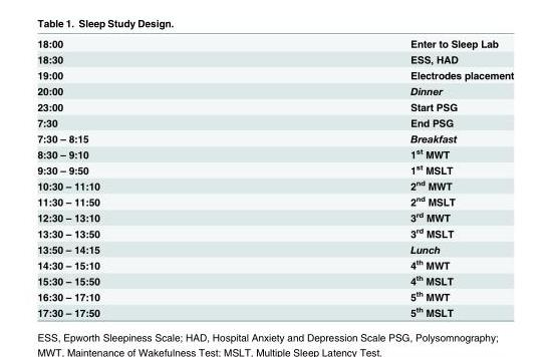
<table><tbody><tr><td>18:00</td><td>Enter to Sleep Lab</td></tr><tr><td>18:30</td><td>ESS, HAD</td></tr><tr><td>19:00</td><td>Electrodes placement</td></tr><tr><td>20:00</td><td>Dinner</td></tr><tr><td>23:00</td><td>Start PSG</td></tr><tr><td>7:30</td><td>End PSG</td></tr><tr><td>7:30 – 8:15</td><td>Breakfast</td></tr><tr><td>8:30 – 9:10</td><td>1<sup>st</sup> MWT</td></tr><tr><td>9:30 – 9:50</td><td>1<sup>st</sup> MSLT</td></tr><tr><td>10:30 – 11:10</td><td>2<sup>nd</sup> MWT</td></tr><tr><td>11:30 – 11:50</td><td>2<sup>nd</sup> MSLT</td></tr><tr><td>12:30 – 13:10</td><td>3<sup>rd</sup> MWT</td></tr><tr><td>13:30 – 13:50</td><td>3<sup>rd</sup> MSLT</td></tr><tr><td>13:50 – 14:15</td><td>Lunch</td></tr><tr><td>14:30 – 15:10</td><td>4<sup>th</sup> MWT</td></tr><tr><td>15:30 – 15:50</td><td>4<sup>th</sup> MSLT</td></tr><tr><td>16:30 – 17:10</td><td>5<sup>th</sup> MWT</td></tr><tr><td>17:30 – 17:50</td><td>5<sup>th</sup> MSLT</td></tr></tbody></table>